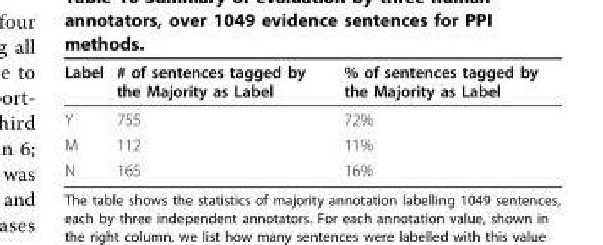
<table><thead><tr><td>Label</td><td># of sentences tagged by the Majority as Label</td><td>% of sentences tagged by the Majority as Label</td></tr></thead><tbody><tr><td>Y</td><td>755</td><td>72%</td></tr><tr><td>M</td><td>112</td><td>11%</td></tr><tr><td>N</td><td>165</td><td>16%</td></tr></tbody></table>